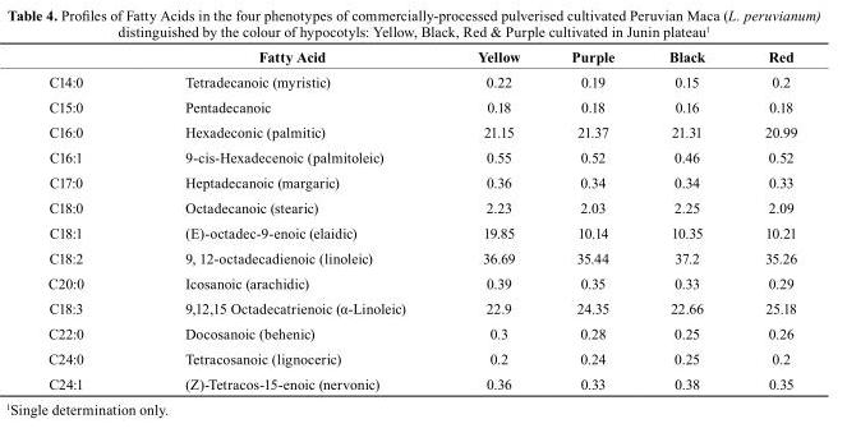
<table><thead><tr><td></td><td>Fatty Acid</td><td>Yellow</td><td>Purple</td><td>black</td><td>red</td></tr></thead><tbody><tr><td>C14:0</td><td>Tetradecanoic (myristic)</td><td>0.22</td><td>0.19</td><td>0.15</td><td>0.2</td></tr><tr><td>C15:0</td><td>Pentadecanoic</td><td>0.18</td><td>0.18</td><td>0.16</td><td>0.18</td></tr><tr><td>C16:0</td><td>Hexadeconic (palmitic)</td><td>21.15</td><td>21.37</td><td>21.31</td><td>20.99</td></tr><tr><td>C16:1</td><td>9-cis-Hexadecenoic (palmitoleic)</td><td>0.55</td><td>0.52</td><td>0.46</td><td>0.52</td></tr><tr><td>C17:0</td><td>Heptadecanoic (margaric)</td><td>0.36</td><td>0.34</td><td>0.34</td><td>0.33</td></tr><tr><td>C18:0</td><td>Octadecanoic (stearic)</td><td>2.23</td><td>2.03</td><td>2.25</td><td>2.09</td></tr><tr><td>C18:1</td><td>(E)-octadec-9-enoic (elaidic)</td><td>19.85</td><td>10.14</td><td>10.35</td><td>10.21</td></tr><tr><td>C18:2</td><td>9, 12-octadecadienoic (linoleic)</td><td>36.69</td><td>35.44</td><td>37.2</td><td>35.26</td></tr><tr><td>C20:0</td><td>Icosanoic (arachidic)</td><td>0.39</td><td>0.35</td><td>0.33</td><td>0.29</td></tr><tr><td>C18:3</td><td>9,12,15 Octadecatrienoic (α-Linoleic)</td><td>22.9</td><td>24.35</td><td>22.66</td><td>25.18</td></tr><tr><td>C22:0</td><td>Docosanoic (behenic)</td><td>0.3</td><td>0.28</td><td>0.25</td><td>0.26</td></tr><tr><td>C24:0</td><td>Tetracosanoic (lignoceric)</td><td>0.2</td><td>0.24</td><td>0.25</td><td>0.2</td></tr><tr><td>C24:1</td><td>(Z)-Tetracos-15-enoic (nervonic)</td><td>0.36</td><td>0.33</td><td>0.38</td><td>0.35</td></tr></tbody></table>